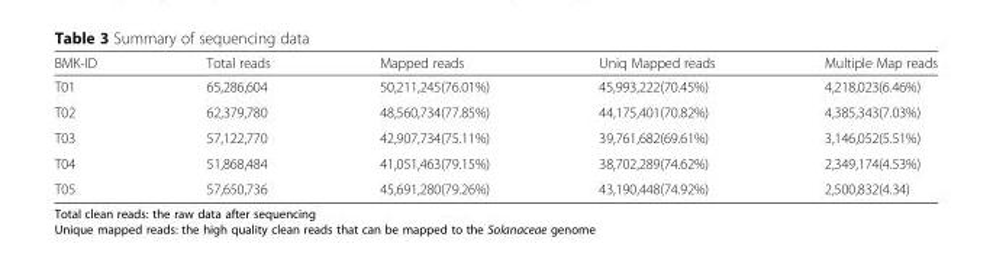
<table><thead><tr><td>BMK-ID</td><td>Total reads</td><td>Mapped reads</td><td>Uniq Mapped reads</td><td>Multiple Map reads</td></tr></thead><tbody><tr><td>T01</td><td>65,286,604</td><td>50,211,245(76.01%)</td><td>45,993,222(70.45%)</td><td>4,218,023(6.46%)</td></tr><tr><td>T02</td><td>62,379,780</td><td>48,560,734(77.85%)</td><td>44,175,401(70.82%)</td><td>4,385,343(7.03%)</td></tr><tr><td>T03</td><td>57,122,770</td><td>42,907,734(75.11%)</td><td>39,761,682(69.61%)</td><td>3,146,052(5.51%)</td></tr><tr><td>T04</td><td>51,868,484</td><td>41,051,463(79.15%)</td><td>38,702,289(74.62%)</td><td>2,349,174(4.53%)</td></tr><tr><td>T05</td><td>57,650,736</td><td>45,691,280(79.26%)</td><td>43,190,448(74.92%)</td><td>2,500,832(4.34)</td></tr></tbody></table>